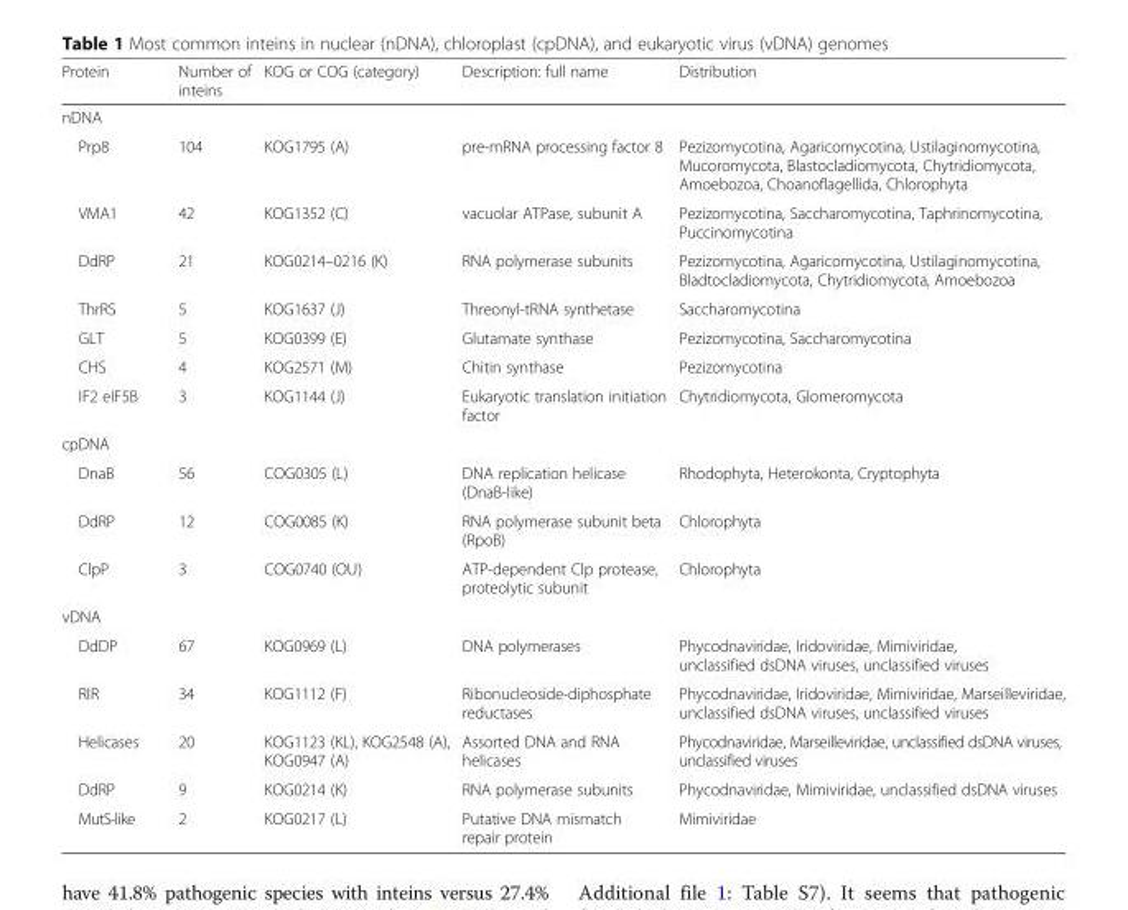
<table><thead><tr><td>Protein</td><td>Number of inteins</td><td>KOG or COG (category)</td><td>Description: full name</td><td>Distribution</td></tr></thead><tbody><tr><td colspan="5">nDNA</td></tr><tr><td>Prp8</td><td>104</td><td>KOG1795 (A)</td><td>pre-mRNA processing factor 8</td><td>Pezizomycotina, Agaricomycotina, Ustilaginomycotina, Mucoromycota, Blastocladiomycota, Chytridiomycota, Amoebozoa, Choanoflagellida, Chlorophyta</td></tr><tr><td>VMA1</td><td>42</td><td>KOG1352 (C)</td><td>vacuolar ATPase, subunit A</td><td>Pezizomycotina, Saccharomycotina, Taphrinomycotina, Puccinomycotina</td></tr><tr><td>DdRP</td><td>21</td><td>KOG0214–0216 (K)</td><td>RNA polymerase subunits</td><td>Pezizomycotina, Agaricomycotina, Ustilaginomycotina, Bladtocladiomycota, Chytridiomycota, Amoebozoa</td></tr><tr><td>ThrRS</td><td>5</td><td>KOG1637 (J)</td><td>Threonyl-tRNA synthetase</td><td>Saccharomycotina</td></tr><tr><td>GLT</td><td>5</td><td>KOG0399 (E)</td><td>Glutamate synthase</td><td>Pezizomycotina, Saccharomycotina</td></tr><tr><td>CHS</td><td>4</td><td>KOG2571 (M)</td><td>Chitin synthase</td><td>Pezizomycotina</td></tr><tr><td>IF2 eIF5B</td><td>3</td><td>KOG1144 (J)</td><td>Eukaryotic translation initiation factor</td><td>Chytridiomycota, Glomeromycota</td></tr><tr><td colspan="5">cpDNA</td></tr><tr><td>DnaB</td><td>56</td><td>COG0305 (L)</td><td>DNA replication helicase (DnaB-like)</td><td>Rhodophyta, Heterokonta, Cryptophyta</td></tr><tr><td>DdRP</td><td>12</td><td>COG0085 (K)</td><td>RNA polymerase subunit beta (RpoB)</td><td>Chlorophyta</td></tr><tr><td>ClpP</td><td>3</td><td>COG0740 (OU)</td><td>ATP-dependent Clp protease, proteolytic subunit</td><td>Chlorophyta</td></tr><tr><td colspan="5">vDNA</td></tr><tr><td>DdDP</td><td>67</td><td>KOG0969 (L)</td><td>DNA polymerases</td><td>Phycodnaviridae, Iridoviridae, Mimiviridae, unclassified dsDNA viruses, unclassified viruses</td></tr><tr><td>RIR</td><td>34</td><td>KOG1112 (F)</td><td>Ribonucleoside-diphosphate reductases</td><td>Phycodnaviridae, Iridoviridae, Mimiviridae, Marseilleviridae, unclassified dsDNA viruses, unclassified viruses</td></tr><tr><td>Helicases</td><td>20</td><td>KOG1123 (KL), KOG2548 (A), KOG0947 (A)</td><td>Assorted DNA and RNA helicases</td><td>Phycodnaviridae, Marseilleviridae, unclassified dsDNA viruses, unclassified viruses</td></tr><tr><td>DdRP</td><td>9</td><td>KOG0214 (K)</td><td>RNA polymerase subunits</td><td>Phycodnaviridae, Mimiviridae, unclassified dsDNA viruses</td></tr><tr><td>MutS-like</td><td>2</td><td>KOG0217 (L)</td><td>Putative DNA mismatch repair protein</td><td>Mimiviridae</td></tr></tbody></table>